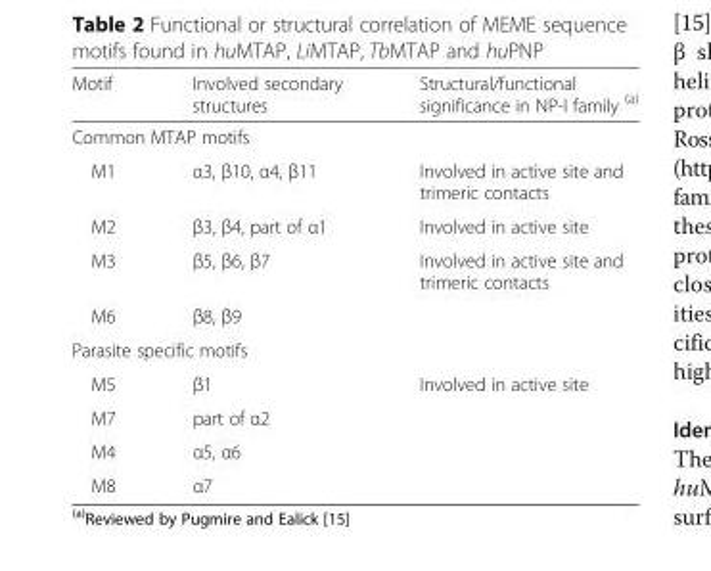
<table><thead><tr><td>Motif</td><td>Involved secondary structures</td><td>Structural/functional significance in NP-I family <sup>(a)</sup></td></tr></thead><tbody><tr><td colspan="3">Common MTAP motifs</td></tr><tr><td>M1</td><td>α3, β10, α4, β11</td><td>Involved in active site and trimeric contacts</td></tr><tr><td>M2</td><td>β3, β4, part of α1</td><td>Involved in active site</td></tr><tr><td>M3</td><td>β5, β6, β7</td><td>Involved in active site and trimeric contacts</td></tr><tr><td>M6</td><td>β8, β9</td><td></td></tr><tr><td colspan="3">Parasite specific motifs</td></tr><tr><td>M5</td><td>β1</td><td>Involved in active site</td></tr><tr><td>M7</td><td>part of α2</td><td></td></tr><tr><td>M4</td><td>α5, α6</td><td></td></tr><tr><td>M8</td><td>α7</td><td></td></tr></tbody></table>